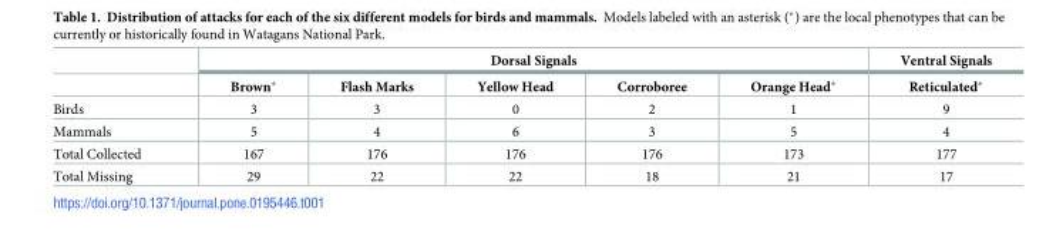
<table><thead><tr><td rowspan="2"></td><td colspan="5">Dorsal Signals</td><td rowspan="2">Ventral Signals Reticulated*</td></tr><tr><td>Brown*</td><td>Flash Marks</td><td>Yellow Head</td><td>Corroboree</td><td>Orange Head*</td></tr></thead><tbody><tr><td>Birds</td><td>3</td><td>3</td><td>0</td><td>2</td><td>1</td><td>9</td></tr><tr><td>Mammals</td><td>5</td><td>4</td><td>6</td><td>3</td><td>5</td><td>4</td></tr><tr><td>Total Collected</td><td>167</td><td>176</td><td>176</td><td>176</td><td>173</td><td>177</td></tr><tr><td>Total Missing</td><td>29</td><td>22</td><td>22</td><td>18</td><td>21</td><td>17</td></tr></tbody></table>